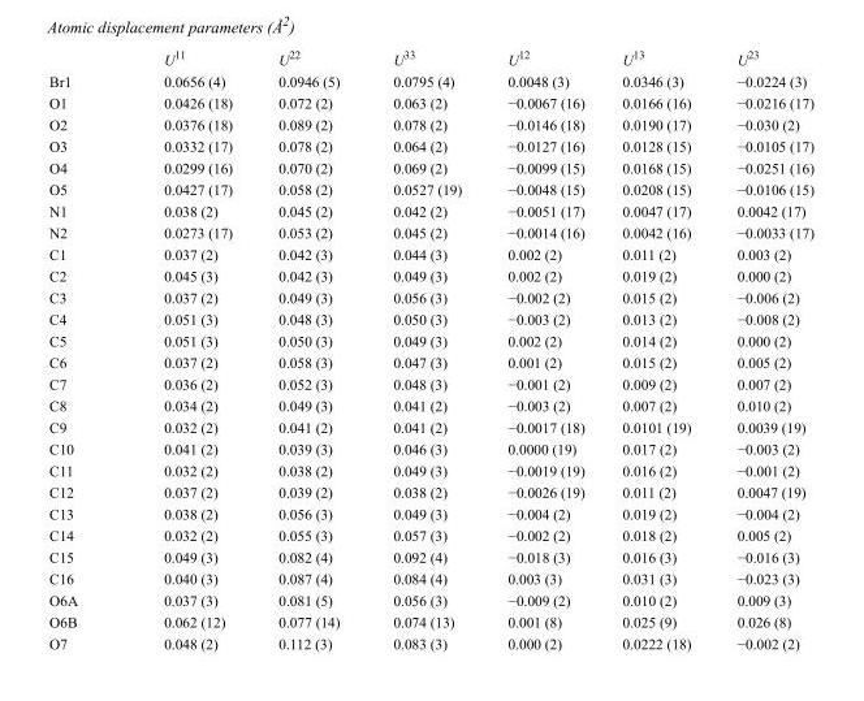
<table><thead><tr><td></td><td>U<sup>11</sup></td><td>U<sup>22</sup></td><td>U<sup>33</sup></td><td>U<sup>12</sup></td><td>U<sup>13</sup></td><td>U<sup>23</sup></td></tr></thead><tbody><tr><td>Br1</td><td>0.0656 (4)</td><td>0.0946 (5)</td><td>0.0795 (4)</td><td>0.0048 (3)</td><td>0.0346 (3)</td><td>−0.0224 (3)</td></tr><tr><td>O1</td><td>0.0426 (18)</td><td>0.072 (2)</td><td>0.063 (2)</td><td>−0.0067 (16)</td><td>0.0166 (16)</td><td>−0.0216 (17)</td></tr><tr><td>O2</td><td>0.0376 (18)</td><td>0.089 (2)</td><td>0.078 (2)</td><td>−0.0146 (18)</td><td>0.0190 (17)</td><td>−0.030 (2)</td></tr><tr><td>O3</td><td>0.0332 (17)</td><td>0.078 (2)</td><td>0.064 (2)</td><td>−0.0127 (16)</td><td>0.0128 (15)</td><td>−0.0105 (17)</td></tr><tr><td>O4</td><td>0.0299 (16)</td><td>0.070 (2)</td><td>0.069 (2)</td><td>−0.0099 (15)</td><td>0.0168 (15)</td><td>−0.0251 (16)</td></tr><tr><td>O5</td><td>0.0427 (17)</td><td>0.058 (2)</td><td>0.0527 (19)</td><td>−0.0048 (15)</td><td>0.0208 (15)</td><td>−0.0106 (15)</td></tr><tr><td>N1</td><td>0.038 (2)</td><td>0.045 (2)</td><td>0.042 (2)</td><td>−0.0051 (17)</td><td>0.0047 (17)</td><td>0.0042 (17)</td></tr><tr><td>N2</td><td>0.0273 (17)</td><td>0.053 (2)</td><td>0.045 (2)</td><td>−0.0014 (16)</td><td>0.0042 (16)</td><td>−0.0033 (17)</td></tr><tr><td>C1</td><td>0.037 (2)</td><td>0.042 (3)</td><td>0.044 (3)</td><td>0.002 (2)</td><td>0.011 (2)</td><td>0.003 (2)</td></tr><tr><td>C2</td><td>0.045 (3)</td><td>0.042 (3)</td><td>0.049 (3)</td><td>0.002 (2)</td><td>0.019 (2)</td><td>0.000 (2)</td></tr><tr><td>C3</td><td>0.037 (2)</td><td>0.049 (3)</td><td>0.056 (3)</td><td>−0.002 (2)</td><td>0.015 (2)</td><td>−0.006 (2)</td></tr><tr><td>C4</td><td>0.051 (3)</td><td>0.048 (3)</td><td>0.050 (3)</td><td>−0.003 (2)</td><td>0.013 (2)</td><td>−0.008 (2)</td></tr><tr><td>C5</td><td>0.051 (3)</td><td>0.050 (3)</td><td>0.049 (3)</td><td>0.002 (2)</td><td>0.014 (2)</td><td>0.000 (2)</td></tr><tr><td>C6</td><td>0.037 (2)</td><td>0.058 (3)</td><td>0.047 (3)</td><td>0.001 (2)</td><td>0.015 (2)</td><td>0.005 (2)</td></tr><tr><td>C7</td><td>0.036 (2)</td><td>0.052 (3)</td><td>0.048 (3)</td><td>−0.001 (2)</td><td>0.009 (2)</td><td>0.007 (2)</td></tr><tr><td>C8</td><td>0.034 (2)</td><td>0.049 (3)</td><td>0.041 (2)</td><td>−0.003 (2)</td><td>0.007 (2)</td><td>0.010 (2)</td></tr><tr><td>C9</td><td>0.032 (2)</td><td>0.041 (2)</td><td>0.041 (2)</td><td>−0.0017 (18)</td><td>0.0101 (19)</td><td>0.0039 (19)</td></tr><tr><td>C10</td><td>0.041 (2)</td><td>0.039 (3)</td><td>0.046 (3)</td><td>0.0000 (19)</td><td>0.017 (2)</td><td>−0.003 (2)</td></tr><tr><td>C11</td><td>0.032 (2)</td><td>0.038 (2)</td><td>0.049 (3)</td><td>−0.0019 (19)</td><td>0.016 (2)</td><td>−0.001 (2)</td></tr><tr><td>C12</td><td>0.037 (2)</td><td>0.039 (2)</td><td>0.038 (2)</td><td>−0.0026 (19)</td><td>0.011 (2)</td><td>0.0047 (19)</td></tr><tr><td>C13</td><td>0.038 (2)</td><td>0.056 (3)</td><td>0.049 (3)</td><td>−0.004 (2)</td><td>0.019 (2)</td><td>−0.004 (2)</td></tr><tr><td>C14</td><td>0.032 (2)</td><td>0.055 (3)</td><td>0.057 (3)</td><td>−0.002 (2)</td><td>0.018 (2)</td><td>0.005 (2)</td></tr><tr><td>C15</td><td>0.049 (3)</td><td>0.082 (4)</td><td>0.092 (4)</td><td>−0.018 (3)</td><td>0.016 (3)</td><td>−0.016 (3)</td></tr><tr><td>C16</td><td>0.040 (3)</td><td>0.087 (4)</td><td>0.084 (4)</td><td>0.003 (3)</td><td>0.031 (3)</td><td>−0.023 (3)</td></tr><tr><td>O6A</td><td>0.037 (3)</td><td>0.081 (5)</td><td>0.056 (3)</td><td>−0.009 (2)</td><td>0.010 (2)</td><td>0.009 (3)</td></tr><tr><td>O6B</td><td>0.062 (12)</td><td>0.077 (14)</td><td>0.074 (13)</td><td>0.001 (8)</td><td>0.025 (9)</td><td>0.026 (8)</td></tr><tr><td>O7</td><td>0.048 (2)</td><td>0.112 (3)</td><td>0.083 (3)</td><td>0.000 (2)</td><td>0.0222 (18)</td><td>−0.002 (2)</td></tr></tbody></table>